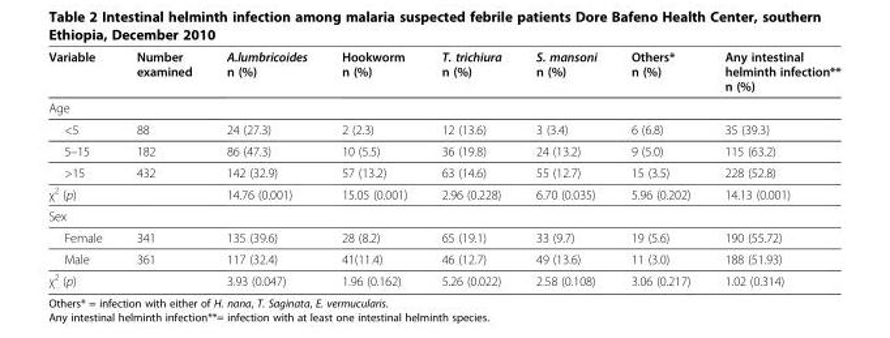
<table><thead><tr><td>Variable</td><td>Number examined</td><td>A.lumbricoides n (%)</td><td>Hookworm n (%)</td><td>T. trichiura n (%)</td><td>S. mansoni n (%)</td><td>Others* n (%)</td><td>Any intestinal helminth infection** n (%)</td></tr></thead><tbody><tr><td colspan="8">Age</td></tr><tr><td>&lt;5</td><td>88</td><td>24 (27.3)</td><td>2 (2.3)</td><td>12 (13.6)</td><td>3 (3.4)</td><td>6 (6.8)</td><td>35 (39.3)</td></tr><tr><td>5–15</td><td>182</td><td>86 (47.3)</td><td>10 (5.5)</td><td>36 (19.8)</td><td>24 (13.2)</td><td>9 (5.0)</td><td>115 (63.2)</td></tr><tr><td>&gt;15</td><td>432</td><td>142 (32.9)</td><td>57 (13.2)</td><td>63 (14.6)</td><td>55 (12.7)</td><td>15 (3.5)</td><td>228 (52.8)</td></tr><tr><td>χ<sup>2</sup> (p)</td><td></td><td>14.76 (0.001)</td><td>15.05 (0.001)</td><td>2.96 (0.228)</td><td>6.70 (0.035)</td><td>5.96 (0.202)</td><td>14.13 (0.001)</td></tr><tr><td colspan="8">Sex</td></tr><tr><td>Female</td><td>341</td><td>135 (39.6)</td><td>28 (8.2)</td><td>65 (19.1)</td><td>33 (9.7)</td><td>19 (5.6)</td><td>190 (55.72)</td></tr><tr><td>Male</td><td>361</td><td>117 (32.4)</td><td>41(11.4)</td><td>46 (12.7)</td><td>49 (13.6)</td><td>11 (3.0)</td><td>188 (51.93)</td></tr><tr><td>χ<sup>2</sup> (p)</td><td></td><td>3.93 (0.047)</td><td>1.96 (0.162)</td><td>5.26 (0.022)</td><td>2.58 (0.108)</td><td>3.06 (0.217)</td><td>1.02 (0.314)</td></tr></tbody></table>